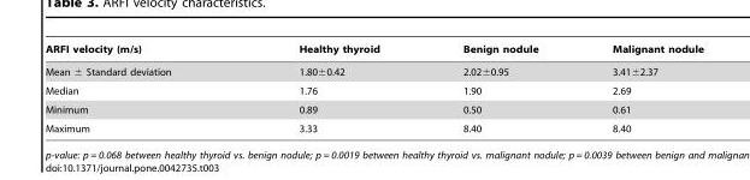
<table><thead><tr><td>ARFI velocity (m/s)</td><td>Healthy thyroid</td><td>Benign nodule</td><td>Malignant nodule</td></tr></thead><tbody><tr><td>Mean ± Standard deviation</td><td>1.80±0.42</td><td>2.02±0.95</td><td>3.41±2.37</td></tr><tr><td>Median</td><td>1.76</td><td>1.90</td><td>2.69</td></tr><tr><td>Minimum</td><td>0.89</td><td>0.50</td><td>0.61</td></tr><tr><td>Maximum</td><td>3.33</td><td>8.40</td><td>8.40</td></tr></tbody></table>